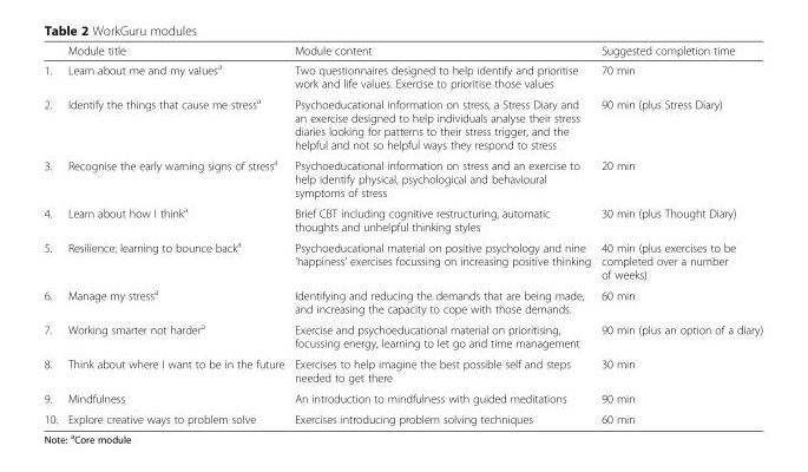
<table><thead><tr><td></td><td>Module title</td><td>Module content</td><td>Suggested completion time</td></tr></thead><tbody><tr><td>1.</td><td>Learn about me and my values<sup>a</sup></td><td>Two questionnaires designed to help identify and prioritise work and life values. Exercise to prioritise those values</td><td>70 min</td></tr><tr><td>2.</td><td>Identify the things that cause me stress<sup>a</sup></td><td>Psychoeducational information on stress, a Stress Diary and an exercise designed to help individuals analyse their stress diaries looking for patterns to their stress trigger, and the helpful and not so helpful ways they respond to stress</td><td>90 min (plus Stress Diary)</td></tr><tr><td>3.</td><td>Recognise the early warning signs of stress<sup>a</sup></td><td>Psychoeducational information on stress and an exercise to help identify physical, psychological and behavioural symptoms of stress</td><td>20 min</td></tr><tr><td>4.</td><td>Learn about how I think<sup>a</sup></td><td>Brief CBT including cognitive restructuring, automatic thoughts and unhelpful thinking styles</td><td>30 min (plus Thought Diary)</td></tr><tr><td>5.</td><td>Resilience: learning to bounce back<sup>a</sup></td><td>Psychoeducational material on positive psychology and nine ‘happiness’ exercises focussing on increasing positive thinking</td><td>40 min (plus exercises to be completed over a number of weeks)</td></tr><tr><td>6.</td><td>Manage my stress<sup>a</sup></td><td>Identifying and reducing the demands that are being made, and increasing the capacity to cope with those demands.</td><td>60 min</td></tr><tr><td>7.</td><td>Working smarter not harder<sup>a</sup></td><td>Exercise and psychoeducational material on prioritising, focussing energy, learning to let go and time management</td><td>90 min (plus an option of a diary)</td></tr><tr><td>8.</td><td>Think about where I want to be in the future</td><td>Exercises to help imagine the best possible self and steps needed to get there</td><td>30 min</td></tr><tr><td>9.</td><td>Mindfulness</td><td>An introduction to mindfulness with guided meditations</td><td>90 min</td></tr><tr><td>10.</td><td>Explore creative ways to problem solve</td><td>Exercises introducing problem solving techniques</td><td>60 min</td></tr></tbody></table>